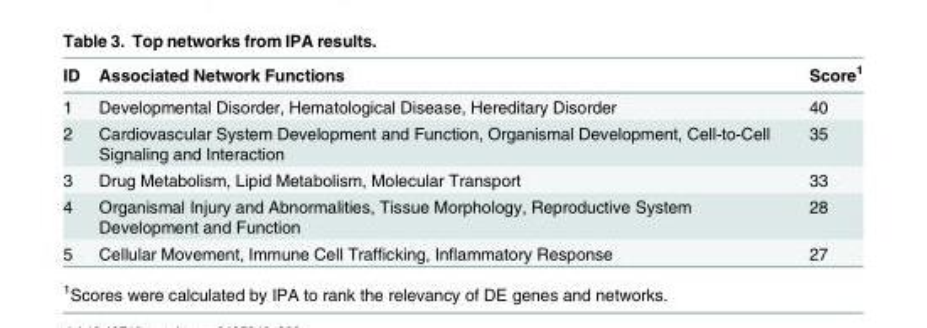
<table><thead><tr><td>ID</td><td>Associated Network Functions</td><td>Score<sup>1</sup></td></tr></thead><tbody><tr><td>1</td><td>Developmental Disorder, Hematological Disease, Hereditary Disorder</td><td>40</td></tr><tr><td>2</td><td>Cardiovascular System Development and Function, Organismal Development, Cell-to-Cell Signaling and Interaction</td><td>35</td></tr><tr><td>3</td><td>Drug Metabolism, Lipid Metabolism, Molecular Transport</td><td>33</td></tr><tr><td>4</td><td>Organismal Injury and Abnormalities, Tissue Morphology, Reproductive System Development and Function</td><td>28</td></tr><tr><td>5</td><td>Cellular Movement, Immune Cell Trafficking, Inflammatory Response</td><td>27</td></tr></tbody></table>